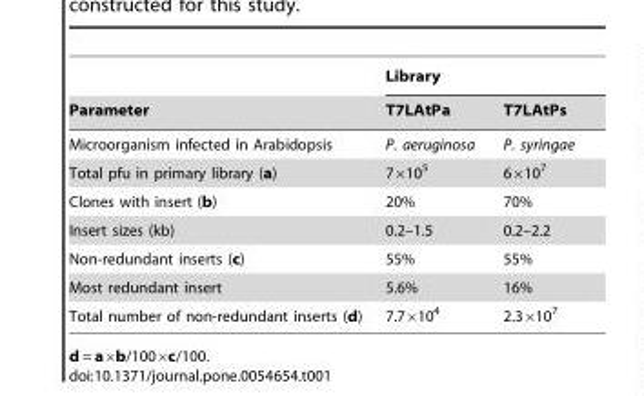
<table><thead><tr><td rowspan="2">Parameter</td><td colspan="2">Library</td></tr><tr><td>T7LAtPa</td><td>T7LAtPs</td></tr></thead><tbody><tr><td>Microorganism infected in Arabidopsis</td><td>P. aeruginosa</td><td>P. syringae</td></tr><tr><td>Total pfu in primary library (a)</td><td>7×10<sup>5</sup></td><td>6×10<sup>7</sup></td></tr><tr><td>Clones with insert (b)</td><td>20%</td><td>70%</td></tr><tr><td>Insert sizes (kb)</td><td>0.2–1.5</td><td>0.2–2.2</td></tr><tr><td>Non-redundant inserts (c)</td><td>55%</td><td>55%</td></tr><tr><td>Most redundant insert</td><td>5.6%</td><td>16%</td></tr><tr><td>Total number of non-redundant inserts (d)</td><td>7.7×10<sup>4</sup></td><td>2.3×10<sup>7</sup></td></tr></tbody></table>